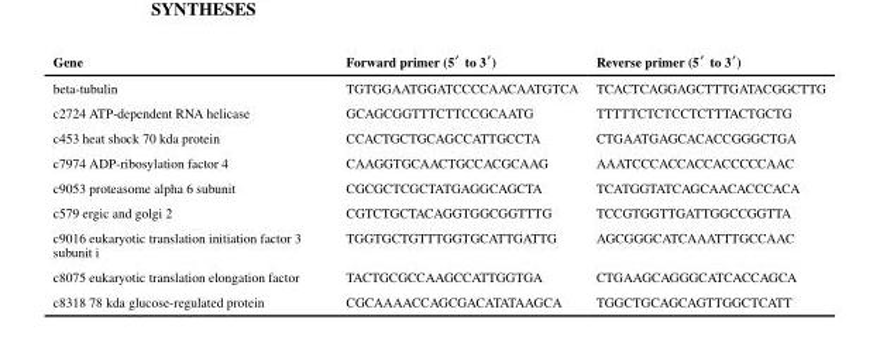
<table><thead><tr><td>Gene</td><td>Forward primer (5′ to 3′)</td><td>Reverse primer (5′ to 3′)</td></tr></thead><tbody><tr><td>beta-tubulin</td><td>TGTGGAATGGATCCCCAACAATGTCA</td><td>TCACTCAGGAGCTTTGATACGGCTTG</td></tr><tr><td>c2724 ATP-dependent RNA helicase</td><td>GCAGCGGTTTCTTCCGCAATG</td><td>TTTTTCTCTCCTCTTTACTGCTG</td></tr><tr><td>c453 heat shock 70 kda protein</td><td>CCACTGCTGCAGCCATTGCCTA</td><td>CTGAATGAGCACACCGGGCTGA</td></tr><tr><td>c7974 ADP-ribosylation factor 4</td><td>CAAGGTGCAACTGCCACGCAAG</td><td>AAATCCCACCACCACCCCCAAC</td></tr><tr><td>c9053 proteasome alpha 6 subunit</td><td>CGCGCTCGCTATGAGGCAGCTA</td><td>TCATGGTATCAGCAACACCCACA</td></tr><tr><td>c579 ergic and golgi 2</td><td>CGTCTGCTACAGGTGGCGGTTTG</td><td>TCCGTGGTTGATTGGCCGGTTA</td></tr><tr><td>c9016 eukaryotic translation initiation factor 3 subunit i</td><td>TGGTGCTGTTTGGTGCATTGATTG</td><td>AGCGGGCATCAAATTTGCCAAC</td></tr><tr><td>c8075 eukaryotic translation elongation factor</td><td>TACTGCGCCAAGCCATTGGTGA</td><td>CTGAAGCAGGGCATCACCAGCA</td></tr><tr><td>c8318 78 kda glucose-regulated protein</td><td>CGCAAAACCAGCGACATATAAGCA</td><td>TGGCTGCAGCAGTTGGCTCATT</td></tr></tbody></table>